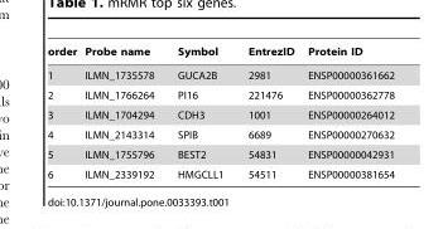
<table><thead><tr><td>order</td><td>Probe name</td><td>Symbol</td><td>EntrezID</td><td>Protein ID</td></tr></thead><tbody><tr><td>1</td><td>ILMN_1735578</td><td>GUCA2B</td><td>2981</td><td>ENSP00000361662</td></tr><tr><td>2</td><td>ILMN_1766264</td><td>PI16</td><td>221476</td><td>ENSP00000362778</td></tr><tr><td>3</td><td>ILMN_1704294</td><td>CDH3</td><td>1001</td><td>ENSP00000264012</td></tr><tr><td>4</td><td>ILMN_2143314</td><td>SPIB</td><td>6689</td><td>ENSP00000270632</td></tr><tr><td>5</td><td>ILMN_1755796</td><td>BEST2</td><td>54831</td><td>ENSP00000042931</td></tr><tr><td>6</td><td>ILMN_2339192</td><td>HMGCLL1</td><td>54511</td><td>ENSP00000381654</td></tr></tbody></table>